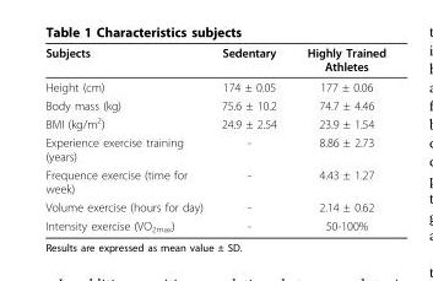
<table><thead><tr><td>Subjects</td><td>Sedentary</td><td>Highly Trained Athletes</td></tr></thead><tbody><tr><td>Height (cm)</td><td>174 ± 0.05</td><td>177 ± 0.06</td></tr><tr><td>Body mass (kg)</td><td>75.6 ± 10.2</td><td>74.7 ± 4.46</td></tr><tr><td>BMI (kg/m<sup>2</sup>)</td><td>24.9 ± 2.54</td><td>23.9 ± 1.54</td></tr><tr><td>Experience exercise training (years)</td><td>-</td><td>8.86 ± 2.73</td></tr><tr><td>Frequence exercise (time for week)</td><td>-</td><td>4.43 ± 1.27</td></tr><tr><td>Volume exercise (hours for day)</td><td>-</td><td>2.14 ± 0.62</td></tr><tr><td>Intensity exercise (VO<sub>2max</sub>)</td><td>-</td><td>50-100%</td></tr></tbody></table>